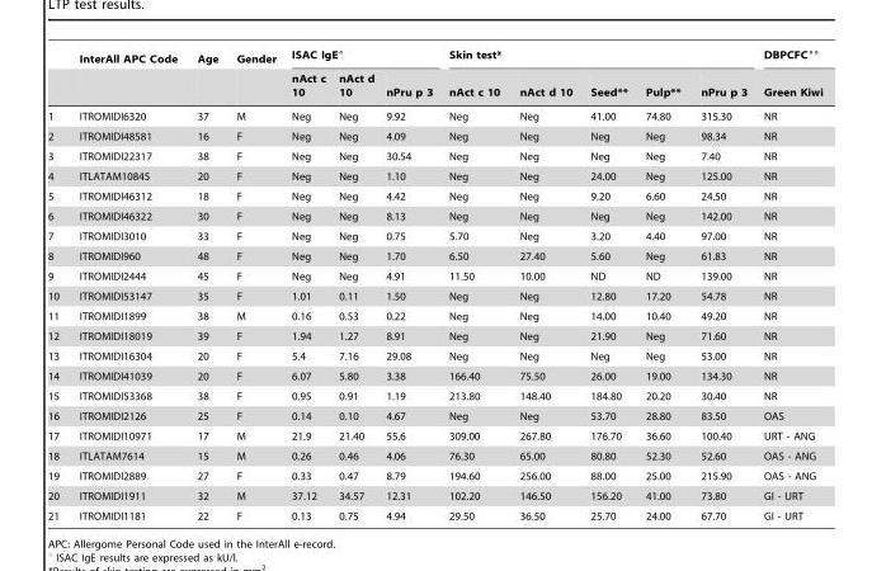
<table><thead><tr><td rowspan="2"></td><td rowspan="2">InterAll APC Code</td><td rowspan="2">Age</td><td rowspan="2">Gender</td><td colspan="3">ISAC IgE°</td><td colspan="5">Skin test*</td><td rowspan="2">DBPCFC°° Green Kiwi</td></tr><tr><td>nAct c 10</td><td>nAct d 10</td><td>nPru p 3</td><td>nAct c 10</td><td>nAct d 10</td><td>Seed**</td><td>Pulp**</td><td>nPru p 3</td></tr></thead><tbody><tr><td>1</td><td>ITROMIDI6320</td><td>37</td><td>M</td><td>Neg</td><td>Neg</td><td>9.92</td><td>Neg</td><td>Neg</td><td>41.00</td><td>74.80</td><td>315.30</td><td>NR</td></tr><tr><td>2</td><td>ITROMIDI48581</td><td>16</td><td>F</td><td>Neg</td><td>Neg</td><td>4.09</td><td>Neg</td><td>Neg</td><td>Neg</td><td>Neg</td><td>98.34</td><td>NR</td></tr><tr><td>3</td><td>ITROMIDI22317</td><td>38</td><td>F</td><td>Neg</td><td>Neg</td><td>30.54</td><td>Neg</td><td>Neg</td><td>Neg</td><td>Neg</td><td>7.40</td><td>NR</td></tr><tr><td>4</td><td>ITLATAM10845</td><td>20</td><td>F</td><td>Neg</td><td>Neg</td><td>1.10</td><td>Neg</td><td>Neg</td><td>24.00</td><td>Neg</td><td>125.00</td><td>NR</td></tr><tr><td>5</td><td>ITROMIDI46312</td><td>18</td><td>F</td><td>Neg</td><td>Neg</td><td>4.42</td><td>Neg</td><td>Neg</td><td>9.20</td><td>6.60</td><td>24.50</td><td>NR</td></tr><tr><td>6</td><td>ITROMIDI46322</td><td>30</td><td>F</td><td>Neg</td><td>Neg</td><td>8.13</td><td>Neg</td><td>Neg</td><td>Neg</td><td>Neg</td><td>142.00</td><td>NR</td></tr><tr><td>7</td><td>ITROMIDI3010</td><td>33</td><td>F</td><td>Neg</td><td>Neg</td><td>0.75</td><td>5.70</td><td>Neg</td><td>3.20</td><td>4.40</td><td>97.00</td><td>NR</td></tr><tr><td>8</td><td>ITROMIDI960</td><td>48</td><td>F</td><td>Neg</td><td>Neg</td><td>1.70</td><td>6.50</td><td>27.40</td><td>5.60</td><td>Neg</td><td>61.83</td><td>NR</td></tr><tr><td>9</td><td>ITROMIDI2444</td><td>45</td><td>F</td><td>Neg</td><td>Neg</td><td>4.91</td><td>11.50</td><td>10.00</td><td>ND</td><td>ND</td><td>139.00</td><td>NR</td></tr><tr><td>10</td><td>ITROMIDI53147</td><td>35</td><td>F</td><td>1.01</td><td>0.11</td><td>1.50</td><td>Neg</td><td>Neg</td><td>12.80</td><td>17.20</td><td>54.78</td><td>NR</td></tr><tr><td>11</td><td>ITROMIDI1899</td><td>38</td><td>M</td><td>0.16</td><td>0.53</td><td>0.22</td><td>Neg</td><td>Neg</td><td>14.00</td><td>10.40</td><td>49.20</td><td>NR</td></tr><tr><td>12</td><td>ITROMIDI18019</td><td>39</td><td>F</td><td>1.94</td><td>1.27</td><td>8.91</td><td>Neg</td><td>Neg</td><td>21.90</td><td>Neg</td><td>71.60</td><td>NR</td></tr><tr><td>13</td><td>ITROMIDI16304</td><td>20</td><td>F</td><td>5.4</td><td>7.16</td><td>29.08</td><td>Neg</td><td>Neg</td><td>Neg</td><td>Neg</td><td>53.00</td><td>NR</td></tr><tr><td>14</td><td>ITROMIDI41039</td><td>20</td><td>F</td><td>6.07</td><td>5.80</td><td>3.38</td><td>166.40</td><td>75.50</td><td>26.00</td><td>19.00</td><td>134.30</td><td>NR</td></tr><tr><td>15</td><td>ITROMIDI53368</td><td>38</td><td>F</td><td>0.95</td><td>0.91</td><td>1.19</td><td>213.80</td><td>148.40</td><td>184.80</td><td>20.20</td><td>30.40</td><td>NR</td></tr><tr><td>16</td><td>ITROMIDI2126</td><td>25</td><td>F</td><td>0.14</td><td>0.10</td><td>4.67</td><td>Neg</td><td>Neg</td><td>53.70</td><td>28.80</td><td>83.50</td><td>OAS</td></tr><tr><td>17</td><td>ITROMIDI10971</td><td>17</td><td>M</td><td>21.9</td><td>21.40</td><td>55.6</td><td>309.00</td><td>267.80</td><td>176.70</td><td>36.60</td><td>100.40</td><td>URT - ANG</td></tr><tr><td>18</td><td>ITLATAM7614</td><td>15</td><td>M</td><td>0.26</td><td>0.46</td><td>4.06</td><td>76.30</td><td>65.00</td><td>80.80</td><td>52.30</td><td>52.60</td><td>OAS - ANG</td></tr><tr><td>19</td><td>ITROMIDI2889</td><td>27</td><td>F</td><td>0.33</td><td>0.47</td><td>8.79</td><td>194.60</td><td>256.00</td><td>88.00</td><td>25.00</td><td>215.90</td><td>OAS - ANG</td></tr><tr><td>20</td><td>ITROMIDI1911</td><td>32</td><td>M</td><td>37.12</td><td>34.57</td><td>12.31</td><td>102.20</td><td>146.50</td><td>156.20</td><td>41.00</td><td>73.80</td><td>GI - URT</td></tr><tr><td>21</td><td>ITROMIDI1181</td><td>22</td><td>F</td><td>0.13</td><td>0.75</td><td>4.94</td><td>29.50</td><td>36.50</td><td>25.70</td><td>24.00</td><td>67.70</td><td>GI - URT</td></tr></tbody></table>